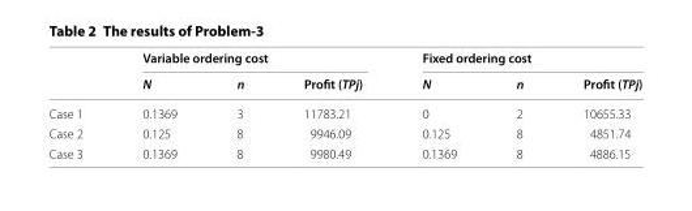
<table><thead><tr><td rowspan="2"></td><td colspan="3">Variable ordering cost</td><td colspan="3">Fixed ordering cost</td></tr><tr><td>N</td><td>n</td><td>Profit (TPj)</td><td>N</td><td>n</td><td>Profit (TPj)</td></tr></thead><tbody><tr><td>Case 1</td><td>0.1369</td><td>3</td><td>11783.21</td><td>0</td><td>2</td><td>10655.33</td></tr><tr><td>Case 2</td><td>0.125</td><td>8</td><td>9946.09</td><td>0.125</td><td>8</td><td>4851.74</td></tr><tr><td>Case 3</td><td>0.1369</td><td>8</td><td>9980.49</td><td>0.1369</td><td>8</td><td>4886.15</td></tr></tbody></table>